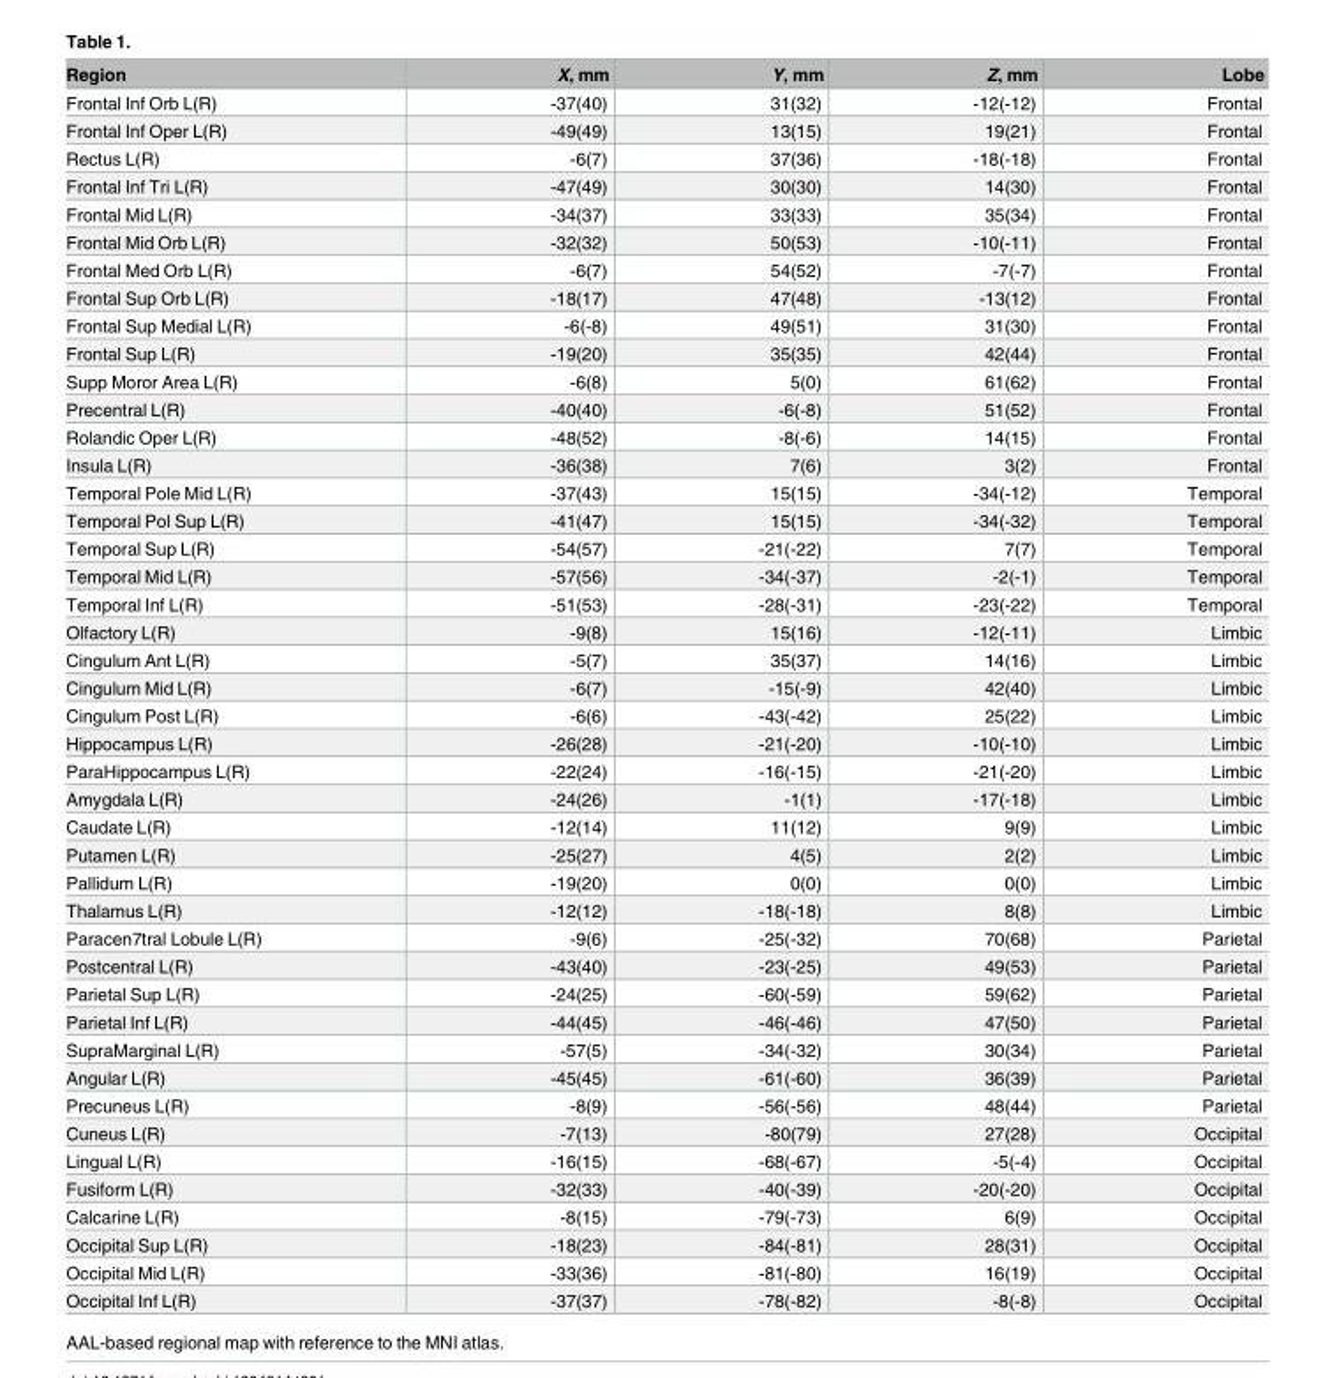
<table><thead><tr><td>Region</td><td>X, mm</td><td>Y, mm</td><td>Z, mm</td><td>Lobe</td></tr></thead><tbody><tr><td>Frontal Inf Orb L(R)</td><td>-37(40)</td><td>31(32)</td><td>-12(-12)</td><td>Frontal</td></tr><tr><td>Frontal Inf Oper L(R)</td><td>-49(49)</td><td>13(15)</td><td>19(21)</td><td>Frontal</td></tr><tr><td>Rectus L(R)</td><td>-6(7)</td><td>37(36)</td><td>-18(-18)</td><td>Frontal</td></tr><tr><td>Frontal Inf Tri L(R)</td><td>-47(49)</td><td>30(30)</td><td>14(30)</td><td>Frontal</td></tr><tr><td>Frontal Mid L(R)</td><td>-34(37)</td><td>33(33)</td><td>35(34)</td><td>Frontal</td></tr><tr><td>Frontal Mid Orb L(R)</td><td>-32(32)</td><td>50(53)</td><td>-10(-11)</td><td>Frontal</td></tr><tr><td>Frontal Med Orb L(R)</td><td>-6(7)</td><td>54(52)</td><td>-7(-7)</td><td>Frontal</td></tr><tr><td>Frontal Sup Orb L(R)</td><td>-18(17)</td><td>47(48)</td><td>-13(12)</td><td>Frontal</td></tr><tr><td>Frontal Sup Medial L(R)</td><td>-6(-8)</td><td>49(51)</td><td>31(30)</td><td>Frontal</td></tr><tr><td>Frontal Sup L(R)</td><td>-19(20)</td><td>35(35)</td><td>42(44)</td><td>Frontal</td></tr><tr><td>Supp Moror Area L(R)</td><td>-6(8)</td><td>5(0)</td><td>61(62)</td><td>Frontal</td></tr><tr><td>Precentral L(R)</td><td>-40(40)</td><td>-6(-8)</td><td>51(52)</td><td>Frontal</td></tr><tr><td>Rolandic Oper L(R)</td><td>-48(52)</td><td>-8(-6)</td><td>14(15)</td><td>Frontal</td></tr><tr><td>Insula L(R)</td><td>-36(38)</td><td>7(6)</td><td>3(2)</td><td>Frontal</td></tr><tr><td>Temporal Pole Mid L(R)</td><td>-37(43)</td><td>15(15)</td><td>-34(-12)</td><td>Temporal</td></tr><tr><td>Temporal Pol Sup L(R)</td><td>-41(47)</td><td>15(15)</td><td>-34(-32)</td><td>Temporal</td></tr><tr><td>Temporal Sup L(R)</td><td>-54(57)</td><td>-21(-22)</td><td>7(7)</td><td>Temporal</td></tr><tr><td>Temporal Mid L(R)</td><td>-57(56)</td><td>-34(-37)</td><td>-2(-1)</td><td>Temporal</td></tr><tr><td>Temporal Inf L(R)</td><td>-51(53)</td><td>-28(-31)</td><td>-23(-22)</td><td>Temporal</td></tr><tr><td>Olfactory L(R)</td><td>-9(8)</td><td>15(16)</td><td>-12(-11)</td><td>Limbic</td></tr><tr><td>Cingulum Ant L(R)</td><td>-5(7)</td><td>35(37)</td><td>14(16)</td><td>Limbic</td></tr><tr><td>Cingulum Mid L(R)</td><td>-6(7)</td><td>-15(-9)</td><td>42(40)</td><td>Limbic</td></tr><tr><td>Cingulum Post L(R)</td><td>-6(6)</td><td>-43(-42)</td><td>25(22)</td><td>Limbic</td></tr><tr><td>Hippocampus L(R)</td><td>-26(28)</td><td>-21(-20)</td><td>-10(-10)</td><td>Limbic</td></tr><tr><td>ParaHippocampus L(R)</td><td>-22(24)</td><td>-16(-15)</td><td>-21(-20)</td><td>Limbic</td></tr><tr><td>Amygdala L(R)</td><td>-24(26)</td><td>-1(1)</td><td>-17(-18)</td><td>Limbic</td></tr><tr><td>Caudate L(R)</td><td>-12(14)</td><td>11(12)</td><td>9(9)</td><td>Limbic</td></tr><tr><td>Putamen L(R)</td><td>-25(27)</td><td>4(5)</td><td>2(2)</td><td>Limbic</td></tr><tr><td>Pallidum L(R)</td><td>-19(20)</td><td>0(0)</td><td>0(0)</td><td>Limbic</td></tr><tr><td>Thalamus L(R)</td><td>-12(12)</td><td>-18(-18)</td><td>8(8)</td><td>Limbic</td></tr><tr><td>Paracen7tral Lobule L(R)</td><td>-9(6)</td><td>-25(-32)</td><td>70(68)</td><td>Parietal</td></tr><tr><td>Postcentral L(R)</td><td>-43(40)</td><td>-23(-25)</td><td>49(53)</td><td>Parietal</td></tr><tr><td>Parietal Sup L(R)</td><td>-24(25)</td><td>-60(-59)</td><td>59(62)</td><td>Parietal</td></tr><tr><td>Parietal Inf L(R)</td><td>-44(45)</td><td>-46(-46)</td><td>47(50)</td><td>Parietal</td></tr><tr><td>SupraMarginal L(R)</td><td>-57(5)</td><td>-34(-32)</td><td>30(34)</td><td>Parietal</td></tr><tr><td>Angular L(R)</td><td>-45(45)</td><td>-61(-60)</td><td>36(39)</td><td>Parietal</td></tr><tr><td>Precuneus L(R)</td><td>-8(9)</td><td>-56(-56)</td><td>48(44)</td><td>Parietal</td></tr><tr><td>Cuneus L(R)</td><td>-7(13)</td><td>-80(79)</td><td>27(28)</td><td>Occipital</td></tr><tr><td>Lingual L(R)</td><td>-16(15)</td><td>-68(-67)</td><td>-5(-4)</td><td>Occipital</td></tr><tr><td>Fusiform L(R)</td><td>-32(33)</td><td>-40(-39)</td><td>-20(-20)</td><td>Occipital</td></tr><tr><td>Calcarine L(R)</td><td>-8(15)</td><td>-79(-73)</td><td>6(9)</td><td>Occipital</td></tr><tr><td>Occipital Sup L(R)</td><td>-18(23)</td><td>-84(-81)</td><td>28(31)</td><td>Occipital</td></tr><tr><td>Occipital Mid L(R)</td><td>-33(36)</td><td>-81(-80)</td><td>16(19)</td><td>Occipital</td></tr><tr><td>Occipital Inf L(R)</td><td>-37(37)</td><td>-78(-82)</td><td>-8(-8)</td><td>Occipital</td></tr></tbody></table>